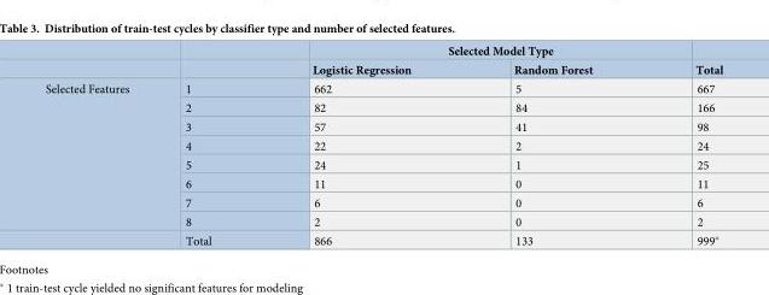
<table><thead><tr><td rowspan="2"></td><td rowspan="2"></td><td colspan="2">Selected Model Type</td><td rowspan="2">Total</td></tr><tr><td>Logistic Regression</td><td>Random Forest</td></tr></thead><tbody><tr><td rowspan="9">Selected Features</td><td>1</td><td>662</td><td>5</td><td>667</td></tr><tr><td>2</td><td>82</td><td>84</td><td>166</td></tr><tr><td>3</td><td>57</td><td>41</td><td>98</td></tr><tr><td>4</td><td>22</td><td>2</td><td>24</td></tr><tr><td>5</td><td>24</td><td>1</td><td>25</td></tr><tr><td>6</td><td>11</td><td>0</td><td>11</td></tr><tr><td>7</td><td>6</td><td>0</td><td>6</td></tr><tr><td>8</td><td>2</td><td>0</td><td>2</td></tr><tr><td>Total</td><td>866</td><td>133</td><td>999*</td></tr></tbody></table>